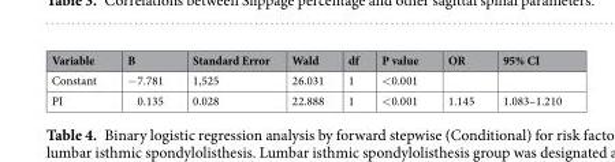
<table><thead><tr><td>Variable</td><td>B</td><td>Standard Error</td><td>Wald</td><td>df</td><td>P value</td><td>OR</td><td>95% CI</td></tr></thead><tbody><tr><td>Constant</td><td>−7.781</td><td>1,525</td><td>26.031</td><td>1</td><td>&lt;0.001</td><td></td><td></td></tr><tr><td>PI</td><td>0.135</td><td>0.028</td><td>22.888</td><td>1</td><td>&lt;0.001</td><td>1.145</td><td>1.083–1.210</td></tr></tbody></table>